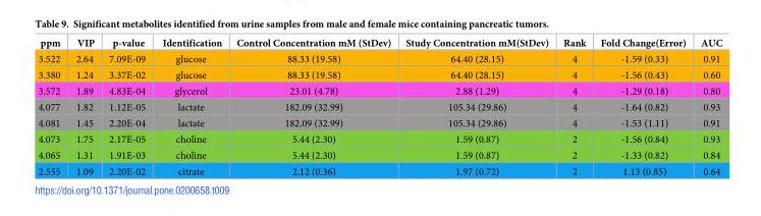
<table><thead><tr><td>ppm</td><td>VIP</td><td>p-value</td><td>Identification</td><td>Control Concentration mM (StDev)</td><td>Study Concentration mM(StDev)</td><td>Rank</td><td>Fold Change(Error)</td><td>AUC</td></tr></thead><tbody><tr><td>3.522</td><td>2.64</td><td>7.09E-09</td><td>glucose</td><td>88.33 (19.58)</td><td>64.40 (28.15)</td><td>4</td><td>-1.59 (0.33)</td><td>0.91</td></tr><tr><td>3.380</td><td>1.24</td><td>3.37E-02</td><td>glucose</td><td>88.33 (19.58)</td><td>64.40 (28.15)</td><td>4</td><td>-1.56 (0.43)</td><td>0.60</td></tr><tr><td>3.572</td><td>1.89</td><td>4.83E-04</td><td>glycerol</td><td>23.01 (4.78)</td><td>2.88 (1.29)</td><td>4</td><td>-1.29 (0.18)</td><td>0.80</td></tr><tr><td>4.077</td><td>1.82</td><td>1.12E-05</td><td>lactate</td><td>182.09 (32.99)</td><td>105.34 (29.86)</td><td>4</td><td>-1.64 (0.82)</td><td>0.93</td></tr><tr><td>4.081</td><td>1.45</td><td>2.20E-04</td><td>lactate</td><td>182.09 (32.99)</td><td>105.34 (29.86)</td><td>4</td><td>-1.53 (1.11)</td><td>0.91</td></tr><tr><td>4.073</td><td>1.75</td><td>2.17E-05</td><td>choline</td><td>5.44 (2.30)</td><td>1.59 (0.87)</td><td>2</td><td>-1.56 (0.84)</td><td>0.93</td></tr><tr><td>4.065</td><td>1.31</td><td>1.91E-03</td><td>choline</td><td>5.44 (2.30)</td><td>1.59 (0.87)</td><td>2</td><td>-1.33 (0.82)</td><td>0.84</td></tr><tr><td>2.555</td><td>1.09</td><td>2.20E-02</td><td>citrate</td><td>2.12 (0.36)</td><td>1.97 (0.72)</td><td>2</td><td>1.13 (0.85)</td><td>0.64</td></tr></tbody></table>